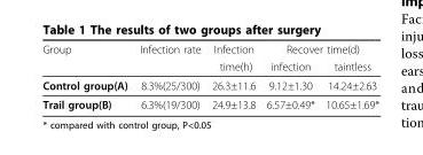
<table><thead><tr><td rowspan="2">Group</td><td rowspan="2">Infection rate</td><td rowspan="2">Infection time(h)</td><td colspan="2">Recover time(d)</td></tr><tr><td>infection</td><td>taintless</td></tr></thead><tbody><tr><td>Control group(A)</td><td>8.3%(25/300)</td><td>26.3±11.6</td><td>9.12±1.30</td><td>14.24±2.63</td></tr><tr><td>Trail group(B)</td><td>6.3%(19/300)</td><td>24.9±13.8</td><td>6.57±0.49*</td><td>10.65±1.69*</td></tr></tbody></table>